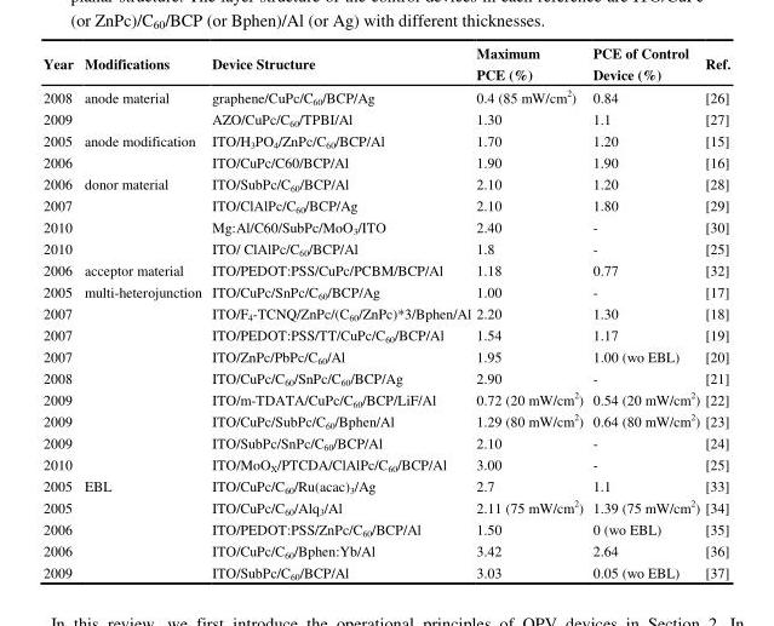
<table><thead><tr><td>Year</td><td>Modifications</td><td>Device Structure</td><td>Maximum PCE (%)</td><td>PCE of Control Device (%)</td><td>Ref.</td></tr></thead><tbody><tr><td>2008</td><td>anode material</td><td>graphene/CuPc/C<sub>60</sub>/BCP/Ag</td><td>0.4 (85 mW/cm<sup>2</sup>)</td><td>0.84</td><td>[26]</td></tr><tr><td>2009</td><td></td><td>AZO/CuPc/C<sub>60</sub>/TPBI/Al</td><td>1.30</td><td>1.1</td><td>[27]</td></tr><tr><td>2005</td><td>anode modification</td><td>ITO/H<sub>3</sub>PO<sub>4</sub>/ZnPc/C<sub>60</sub>/BCP/Al</td><td>1.70</td><td>1.20</td><td>[15]</td></tr><tr><td>2006</td><td></td><td>ITO/CuPc/C60/BCP/Al</td><td>1.90</td><td>1.90</td><td>[16]</td></tr><tr><td>2006</td><td>donor material</td><td>ITO/SubPc/C<sub>60</sub>/BCP/Al</td><td>2.10</td><td>1.20</td><td>[28]</td></tr><tr><td>2007</td><td></td><td>ITO/ClAlPc/C<sub>60</sub>/BCP/Ag</td><td>2.10</td><td>1.80</td><td>[29]</td></tr><tr><td>2010</td><td></td><td>Mg:Al/C60/SubPc/MoO<sub>3</sub>/ITO</td><td>2.40</td><td>-</td><td>[30]</td></tr><tr><td>2010</td><td></td><td>ITO/ ClAlPc/C<sub>60</sub>/BCP/Al</td><td>1.8</td><td>-</td><td>[25]</td></tr><tr><td>2006</td><td>acceptor material</td><td>ITO/PEDOT:PSS/CuPc/PCBM/BCP/Al</td><td>1.18</td><td>0.77</td><td>[32]</td></tr><tr><td>2005</td><td>multi-heterojunction</td><td>ITO/CuPc/SnPc/C<sub>60</sub>/BCP/Ag</td><td>1.00</td><td>-</td><td>[17]</td></tr><tr><td>2007</td><td></td><td>ITO/F<sub>4</sub>-TCNQ/ZnPc/(C<sub>60</sub>/ZnPc)*3/Bphen/Al</td><td>2.20</td><td>1.30</td><td>[18]</td></tr><tr><td>2007</td><td></td><td>ITO/PEDOT:PSS/TT/CuPc/C<sub>60</sub>/BCP/Al</td><td>1.54</td><td>1.17</td><td>[19]</td></tr><tr><td>2007</td><td></td><td>ITO/ZnPc/PbPc/C<sub>60</sub>/Al</td><td>1.95</td><td>1.00 (wo EBL)</td><td>[20]</td></tr><tr><td>2008</td><td></td><td>ITO/CuPc/C<sub>60</sub>/SnPc/C<sub>60</sub>/BCP/Ag</td><td>2.90</td><td>-</td><td>[21]</td></tr><tr><td>2009</td><td></td><td>ITO/m-TDATA/CuPc/C<sub>60</sub>/BCP/LiF/Al</td><td>0.72 (20 mW/cm<sup>2</sup>)</td><td>0.54 (20 mW/cm<sup>2</sup>)</td><td>[22]</td></tr><tr><td>2009</td><td></td><td>ITO/CuPc/SubPc/C<sub>60</sub>/Bphen/Al</td><td>1.29 (80 mW/cm<sup>2</sup>)</td><td>0.64 (80 mW/cm<sup>2</sup>)</td><td>[23]</td></tr><tr><td>2009</td><td></td><td>ITO/SubPc/SnPc/C<sub>60</sub>/BCP/Al</td><td>2.10</td><td>-</td><td>[24]</td></tr><tr><td>2010</td><td></td><td>ITO/MoO<sub>X</sub>/PTCDA/ClAlPc/C<sub>60</sub>/BCP/Al</td><td>3.00</td><td>-</td><td>[25]</td></tr><tr><td>2005</td><td>EBL</td><td>ITO/CuPc/C<sub>60</sub>/Ru(acac)<sub>3</sub>/Ag</td><td>2.7</td><td>1.1</td><td>[33]</td></tr><tr><td>2005</td><td></td><td>ITO/CuPc/C<sub>60</sub>/Alq<sub>3</sub>/Al</td><td>2.11 (75 mW/cm<sup>2</sup>)</td><td>1.39 (75 mW/cm<sup>2</sup>)</td><td>[34]</td></tr><tr><td>2006</td><td></td><td>ITO/PEDOT:PSS/ZnPc/C<sub>60</sub>/BCP/Al</td><td>1.50</td><td>0 (wo EBL)</td><td>[35]</td></tr><tr><td>2006</td><td></td><td>ITO/CuPc/C<sub>60</sub>/Bphen:Yb/Al</td><td>3.42</td><td>2.64</td><td>[36]</td></tr><tr><td>2009</td><td></td><td>ITO/SubPc/C<sub>60</sub>/BCP/Al</td><td>3.03</td><td>0.05 (wo EBL)</td><td>[37]</td></tr></tbody></table>